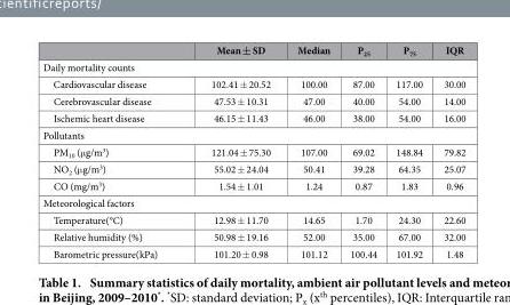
<table><thead><tr><td></td><td>Mean ± SD</td><td>Median</td><td>P<sub>25</sub></td><td>P<sub>75</sub></td><td>IQR</td></tr></thead><tbody><tr><td colspan="6">Daily mortality counts</td></tr><tr><td>Cardiovascular disease</td><td>102.41 ± 20.52</td><td>100.00</td><td>87.00</td><td>117.00</td><td>30.00</td></tr><tr><td>Cerebrovascular disease</td><td>47.53 ± 10.31</td><td>47.00</td><td>40.00</td><td>54.00</td><td>14.00</td></tr><tr><td>Ischemic heart disease</td><td>46.15 ± 11.43</td><td>46.00</td><td>38.00</td><td>54.00</td><td>16.00</td></tr><tr><td colspan="6">Pollutants</td></tr><tr><td>PM<sub>10</sub> (μ g/m<sup>3</sup>)</td><td>121.04 ± 75.30</td><td>107.00</td><td>69.02</td><td>148.84</td><td>79.82</td></tr><tr><td>NO<sub>2</sub> (μ g/m<sup>3</sup>)</td><td>55.02 ± 24.04</td><td>50.41</td><td>39.28</td><td>64.35</td><td>25.07</td></tr><tr><td>CO (mg/m<sup>3</sup>)</td><td>1.54 ± 1.01</td><td>1.24</td><td>0.87</td><td>1.83</td><td>0.96</td></tr><tr><td colspan="6">Meteorological factors</td></tr><tr><td>Temperature(°C)</td><td>12.98 ± 11.70</td><td>14.65</td><td>1.70</td><td>24.30</td><td>22.60</td></tr><tr><td>Relative humidity (%)</td><td>50.98 ± 19.16</td><td>52.00</td><td>35.00</td><td>67.00</td><td>32.00</td></tr><tr><td>Barometric pressure(kPa)</td><td>101.20 ± 0.98</td><td>101.12</td><td>100.44</td><td>101.92</td><td>1.48</td></tr></tbody></table>